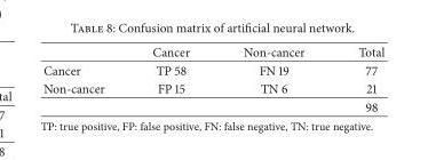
<table><thead><tr><td></td><td>Cancer</td><td>Non-cancer</td><td>Total</td></tr></thead><tbody><tr><td>Cancer</td><td>TP 58</td><td>FN 19</td><td>77</td></tr><tr><td rowspan="2">Non-cancer</td><td>FP 15</td><td>TN 6</td><td>21</td></tr><tr><td></td><td></td><td>98</td></tr></tbody></table>